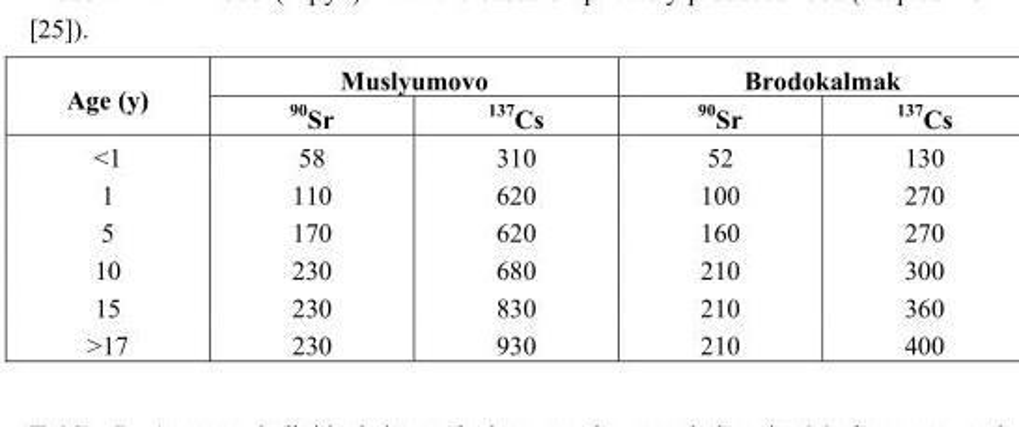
<table><thead><tr><td rowspan="2">Age (y)</td><td colspan="2">Muslyumovo</td><td colspan="2">Brodokalmak</td></tr><tr><td><sup>90</sup>Sr</td><td><sup>137</sup>Cs</td><td><sup>90</sup>Sr</td><td><sup>137</sup>Cs</td></tr></thead><tbody><tr><td>&lt;1</td><td>58</td><td>310</td><td>52</td><td>130</td></tr><tr><td>1</td><td>110</td><td>620</td><td>100</td><td>270</td></tr><tr><td>5</td><td>170</td><td>620</td><td>160</td><td>270</td></tr><tr><td>10</td><td>230</td><td>680</td><td>210</td><td>300</td></tr><tr><td>15</td><td>230</td><td>830</td><td>210</td><td>360</td></tr><tr><td>&gt;17</td><td>230</td><td>930</td><td>210</td><td>400</td></tr></tbody></table>